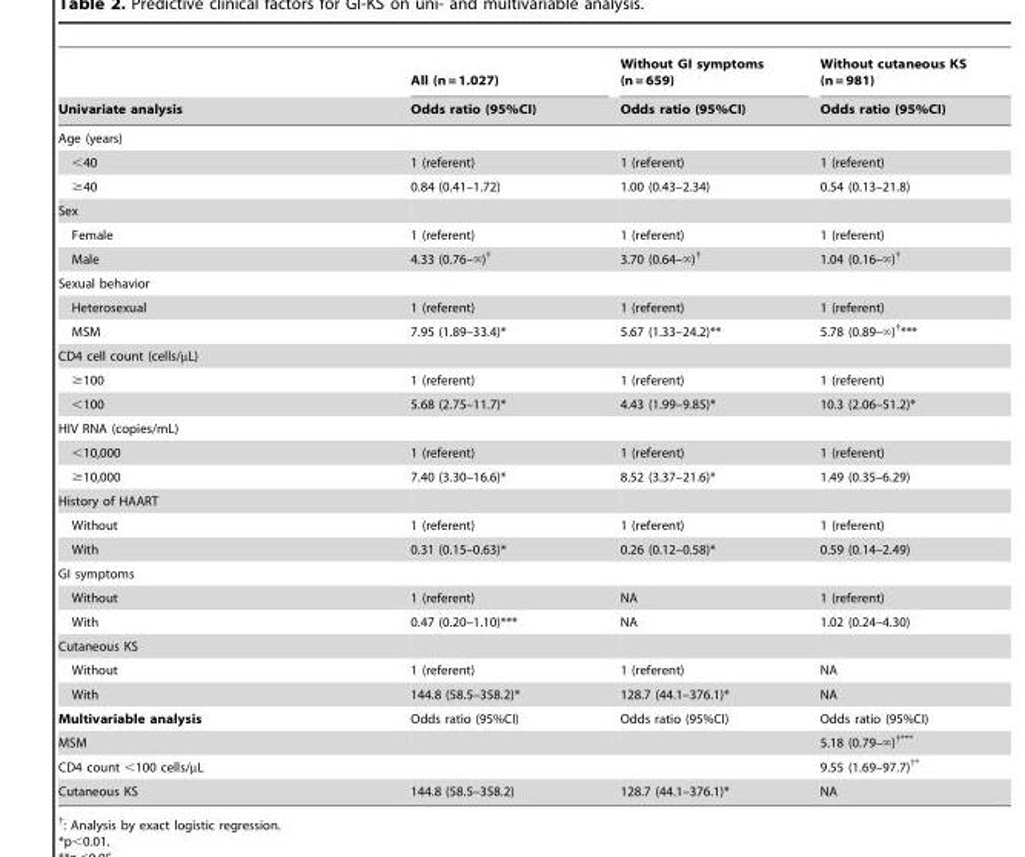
<table><thead><tr><td rowspan="2">Univariate analysis</td><td rowspan="2">All (n = 1.027) Odds ratio (95%CI)</td><td rowspan="2">Without GI symptoms (n = 659) Odds ratio (95%CI)</td><td rowspan="2">Without cutaneous KS (n = 981) Odds ratio (95%CI)</td></tr><tr></tr></thead><tbody><tr><td colspan="4">Age (years)</td></tr><tr><td>&lt;40</td><td>1 (referent)</td><td>1 (referent)</td><td>1 (referent)</td></tr><tr><td>≥40</td><td>0.84 (0.41–1.72)</td><td>1.00 (0.43–2.34)</td><td>0.54 (0.13–21.8)</td></tr><tr><td colspan="4">Sex</td></tr><tr><td>Female</td><td>1 (referent)</td><td>1 (referent)</td><td>1 (referent)</td></tr><tr><td>Male</td><td>4.33 (0.76–‘){</td><td>3.70 (0.64–‘){</td><td>1.04 (0.16–‘){</td></tr><tr><td colspan="4">Sexual behavior</td></tr><tr><td>Heterosexual</td><td>1 (referent)</td><td>1 (referent)</td><td>1 (referent)</td></tr><tr><td>MSM</td><td>7.95 (1.89–33.4)*</td><td>5.67 (1.33–24.2)**</td><td>5.78 (0.89–‘){***</td></tr><tr><td colspan="4">CD4 cell count (cells/µL)</td></tr><tr><td>≥100</td><td>1 (referent)</td><td>1 (referent)</td><td>1 (referent)</td></tr><tr><td>&lt;100</td><td>5.68 (2.75–11.7)*</td><td>4.43 (1.99–9.85)*</td><td>10.3 (2.06–51.2)*</td></tr><tr><td colspan="4">HIV RNA (copies/mL)</td></tr><tr><td>&lt;10,000</td><td>1 (referent)</td><td>1 (referent)</td><td>1 (referent)</td></tr><tr><td>≥10,000</td><td>7.40 (3.30–16.6)*</td><td>8.52 (3.37–21.6)*</td><td>1.49 (0.35–6.29)</td></tr><tr><td colspan="4">History of HAART</td></tr><tr><td>Without</td><td>1 (referent)</td><td>1 (referent)</td><td>1 (referent)</td></tr><tr><td>With</td><td>0.31 (0.15–0.63)*</td><td>0.26 (0.12–0.58)*</td><td>0.59 (0.14–2.49)</td></tr><tr><td colspan="4">GI symptoms</td></tr><tr><td>Without</td><td>1 (referent)</td><td>NA</td><td>1 (referent)</td></tr><tr><td>With</td><td>0.47 (0.20–1.10)***</td><td>NA</td><td>1.02 (0.24–4.30)</td></tr><tr><td colspan="4">Cutaneous KS</td></tr><tr><td>Without</td><td>1 (referent)</td><td>1 (referent)</td><td>NA</td></tr><tr><td>With</td><td>144.8 (58.5–358.2)*</td><td>128.7 (44.1–376.1)*</td><td>NA</td></tr><tr><td>Multivariable analysis</td><td>Odds ratio (95%CI)</td><td>Odds ratio (95%CI)</td><td>Odds ratio (95%CI)</td></tr><tr><td>MSM</td><td></td><td></td><td>5.18 (0.79–‘){***</td></tr><tr><td>CD4 count &lt;100 cells/µL</td><td></td><td></td><td>9.55 (1.69–97.7)†*</td></tr><tr><td>Cutaneous KS</td><td>144.8 (58.5–358.2)</td><td>128.7 (44.1–376.1)*</td><td>NA</td></tr></tbody></table>